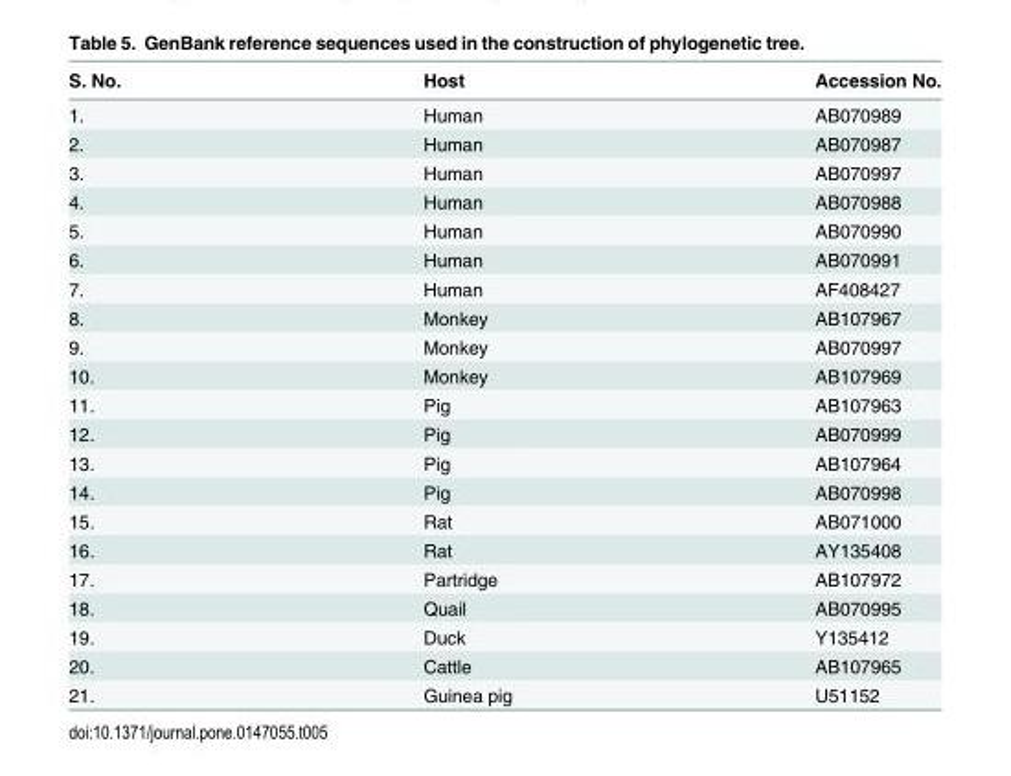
<table><thead><tr><td>S. No.</td><td>Host</td><td>Accession No.</td></tr></thead><tbody><tr><td>1.</td><td>Human</td><td>AB070989</td></tr><tr><td>2.</td><td>Human</td><td>AB070987</td></tr><tr><td>3.</td><td>Human</td><td>AB070997</td></tr><tr><td>4.</td><td>Human</td><td>AB070988</td></tr><tr><td>5.</td><td>Human</td><td>AB070990</td></tr><tr><td>6.</td><td>Human</td><td>AB070991</td></tr><tr><td>7.</td><td>Human</td><td>AF408427</td></tr><tr><td>8.</td><td>Monkey</td><td>AB107967</td></tr><tr><td>9.</td><td>Monkey</td><td>AB070997</td></tr><tr><td>10.</td><td>Monkey</td><td>AB107969</td></tr><tr><td>11.</td><td>Pig</td><td>AB107963</td></tr><tr><td>12.</td><td>Pig</td><td>AB070999</td></tr><tr><td>13.</td><td>Pig</td><td>AB107964</td></tr><tr><td>14.</td><td>Pig</td><td>AB070998</td></tr><tr><td>15.</td><td>Rat</td><td>AB071000</td></tr><tr><td>16.</td><td>Rat</td><td>AY135408</td></tr><tr><td>17.</td><td>Partridge</td><td>AB107972</td></tr><tr><td>18.</td><td>Quail</td><td>AB070995</td></tr><tr><td>19.</td><td>Duck</td><td>Y135412</td></tr><tr><td>20.</td><td>Cattle</td><td>AB107965</td></tr><tr><td>21.</td><td>Guinea pig</td><td>U51152</td></tr></tbody></table>